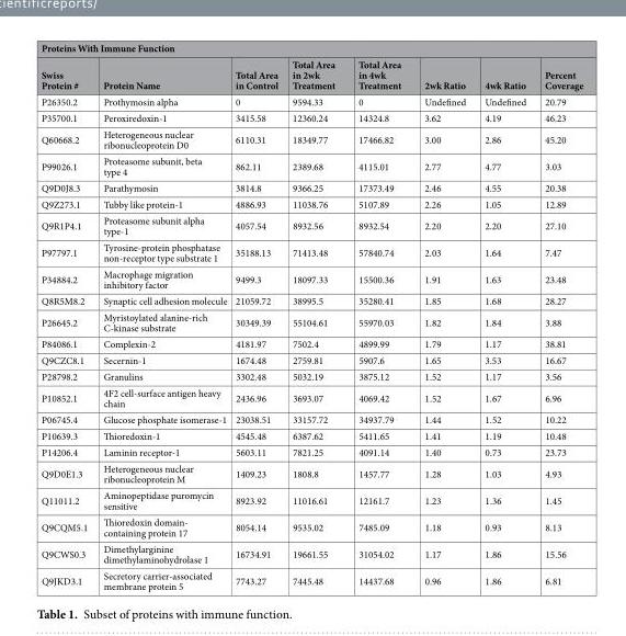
<table><thead><tr><td colspan="8">Proteins With Immune Function</td></tr><tr><td>Swiss Protein #</td><td>Protein Name</td><td>Total Area in Control</td><td>Total Area in 2wk Treatment</td><td>Total Area in 4wk Treatment</td><td>2wk Ratio</td><td>4wk Ratio</td><td>Percent Coverage</td></tr></thead><tbody><tr><td>P26350.2</td><td>Prothymosin alpha</td><td>0</td><td>9594.33</td><td>0</td><td>Undefined</td><td>Undefined</td><td>20.79</td></tr><tr><td>P35700.1</td><td>Peroxiredoxin-1</td><td>3415.58</td><td>12360.24</td><td>14324.8</td><td>3.62</td><td>4.19</td><td>46.23</td></tr><tr><td>Q60668.2</td><td>Heterogeneous nuclear ribonucleoprotein D0</td><td>6110.31</td><td>18349.77</td><td>17466.82</td><td>3.00</td><td>2.86</td><td>45.20</td></tr><tr><td>P99026.1</td><td>Proteasome subunit, beta type 4</td><td>862.11</td><td>2389.68</td><td>4115.01</td><td>2.77</td><td>4.77</td><td>3.03</td></tr><tr><td>Q9D0J8.3</td><td>Parathymosin</td><td>3814.8</td><td>9366.25</td><td>17373.49</td><td>2.46</td><td>4.55</td><td>20.38</td></tr><tr><td>Q9Z273.1</td><td>Tubby like protein-1</td><td>4886.93</td><td>11038.76</td><td>5107.89</td><td>2.26</td><td>1.05</td><td>12.89</td></tr><tr><td>Q9R1P4.1</td><td>Proteasome subunit alpha type-1</td><td>4057.54</td><td>8932.56</td><td>8932.54</td><td>2.20</td><td>2.20</td><td>27.10</td></tr><tr><td>P97797.1</td><td>Tyrosine-protein phosphatase non-receptor type substrate 1</td><td>35188.13</td><td>71413.48</td><td>57840.74</td><td>2.03</td><td>1.64</td><td>7.47</td></tr><tr><td>P34884.2</td><td>Macrophage migration inhibitory factor</td><td>9499.3</td><td>18097.33</td><td>15500.36</td><td>1.91</td><td>1.63</td><td>23.48</td></tr><tr><td>Q8R5M8.2</td><td>Synaptic cell adhesion molecule</td><td>21059.72</td><td>38995.5</td><td>35280.41</td><td>1.85</td><td>1.68</td><td>28.27</td></tr><tr><td>P26645.2</td><td>Myristoylated alanine-rich C-kinase substrate</td><td>30349.39</td><td>55104.61</td><td>55970.03</td><td>1.82</td><td>1.84</td><td>3.88</td></tr><tr><td>P84086.1</td><td>Complexin-2</td><td>4181.97</td><td>7502.4</td><td>4899.99</td><td>1.79</td><td>1.17</td><td>38.81</td></tr><tr><td>Q9CZC8.1</td><td>Secernin-1</td><td>1674.48</td><td>2759.81</td><td>5907.6</td><td>1.65</td><td>3.53</td><td>16.67</td></tr><tr><td>P28798.2</td><td>Granulins</td><td>3302.48</td><td>5032.19</td><td>3875.12</td><td>1.52</td><td>1.17</td><td>3.56</td></tr><tr><td>P10852.1</td><td>4F2 cell-surface antigen heavy chain</td><td>2436.96</td><td>3693.07</td><td>4069.42</td><td>1.52</td><td>1.67</td><td>6.96</td></tr><tr><td>P06745.4</td><td>Glucose phosphate isomerase-1</td><td>23038.51</td><td>33157.72</td><td>34937.79</td><td>1.44</td><td>1.52</td><td>10.22</td></tr><tr><td>P10639.3</td><td>Thioredoxin-1</td><td>4545.48</td><td>6387.62</td><td>5411.65</td><td>1.41</td><td>1.19</td><td>10.48</td></tr><tr><td>P14206.4</td><td>Laminin receptor-1</td><td>5603.11</td><td>7821.25</td><td>4091.14</td><td>1.40</td><td>0.73</td><td>23.73</td></tr><tr><td>Q9D0E1.3</td><td>Heterogeneous nuclear ribonucleoprotein M</td><td>1409.23</td><td>1808.8</td><td>1457.77</td><td>1.28</td><td>1.03</td><td>4.93</td></tr><tr><td>Q11011.2</td><td>Aminopeptidase puromycin sensitive</td><td>8923.92</td><td>11016.61</td><td>12161.7</td><td>1.23</td><td>1.36</td><td>1.45</td></tr><tr><td>Q9CQM5.1</td><td>Thioredoxin domain- containing protein 17</td><td>8054.14</td><td>9535.02</td><td>7485.09</td><td>1.18</td><td>0.93</td><td>8.13</td></tr><tr><td>Q9CWS0.3</td><td>Dimethylarginine dimethylaminohydrolase 1</td><td>16734.91</td><td>19661.55</td><td>31054.02</td><td>1.17</td><td>1.86</td><td>15.56</td></tr><tr><td>Q9JKD3.1</td><td>Secretory carrier-associated membrane protein 5</td><td>7743.27</td><td>7445.48</td><td>14437.68</td><td>0.96</td><td>1.86</td><td>6.81</td></tr></tbody></table>